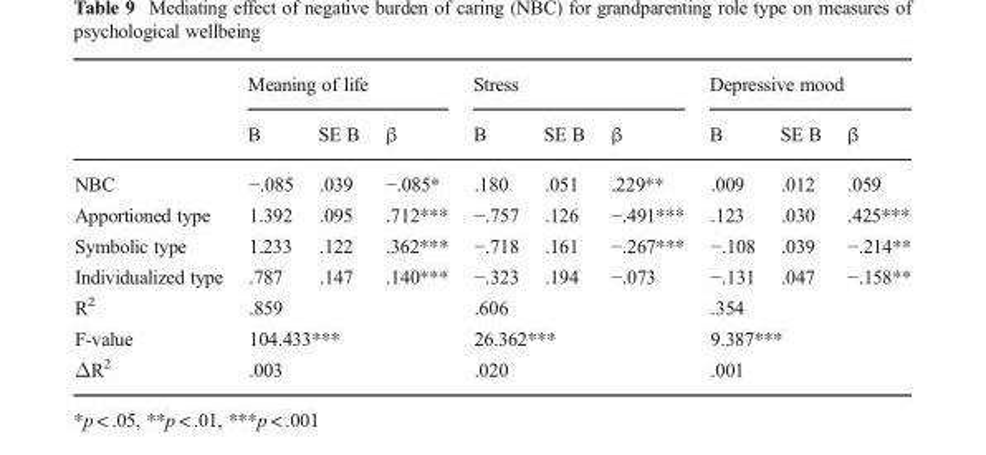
<table><thead><tr><td rowspan="2"></td><td colspan="3">Meaning of life</td><td colspan="3">Stress</td><td colspan="3">Depressive mood</td></tr><tr><td>B</td><td>SE B</td><td>β</td><td>B</td><td>SE B</td><td>β</td><td>B</td><td>SE B</td><td>β</td></tr></thead><tbody><tr><td>NBC</td><td>−.085</td><td>.039</td><td>−.085*</td><td>.180</td><td>.051</td><td>.229**</td><td>.009</td><td>.012</td><td>.059</td></tr><tr><td>Apportioned type</td><td>1.392</td><td>.095</td><td>.712***</td><td>−.757</td><td>.126</td><td>−.491***</td><td>.123</td><td>.030</td><td>.425***</td></tr><tr><td>Symbolic type</td><td>1.233</td><td>.122</td><td>.362***</td><td>−.718</td><td>.161</td><td>−.267***</td><td>−.108</td><td>.039</td><td>−.214**</td></tr><tr><td>Individualized type</td><td>.787</td><td>.147</td><td>.140***</td><td>−.323</td><td>.194</td><td>−.073</td><td>−.131</td><td>.047</td><td>−.158**</td></tr><tr><td>R<sup>2</sup></td><td colspan="3">.859</td><td colspan="3">.606</td><td colspan="3">.354</td></tr><tr><td>F-value</td><td colspan="3">104.433***</td><td colspan="3">26.362***</td><td colspan="3">9.387***</td></tr><tr><td>ΔR<sup>2</sup></td><td colspan="3">.003</td><td colspan="3">.020</td><td colspan="3">.001</td></tr></tbody></table>